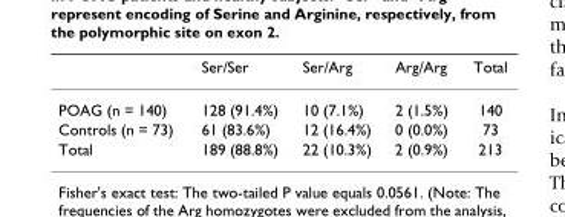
<table><thead><tr><td></td><td>Ser/Ser</td><td>Ser/Arg</td><td>Arg/Arg</td><td>Total</td></tr></thead><tbody><tr><td>POAG (n = 140)</td><td>128 (91.4%)</td><td>10 (7.1%)</td><td>2 (1.5%)</td><td>140</td></tr><tr><td>Controls (n = 73)</td><td>61 (83.6%)</td><td>12 (16.4%)</td><td>0 (0.0%)</td><td>73</td></tr><tr><td>Total</td><td>189 (88.8%)</td><td>22 (10.3%)</td><td>2 (0.9%)</td><td>213</td></tr></tbody></table>